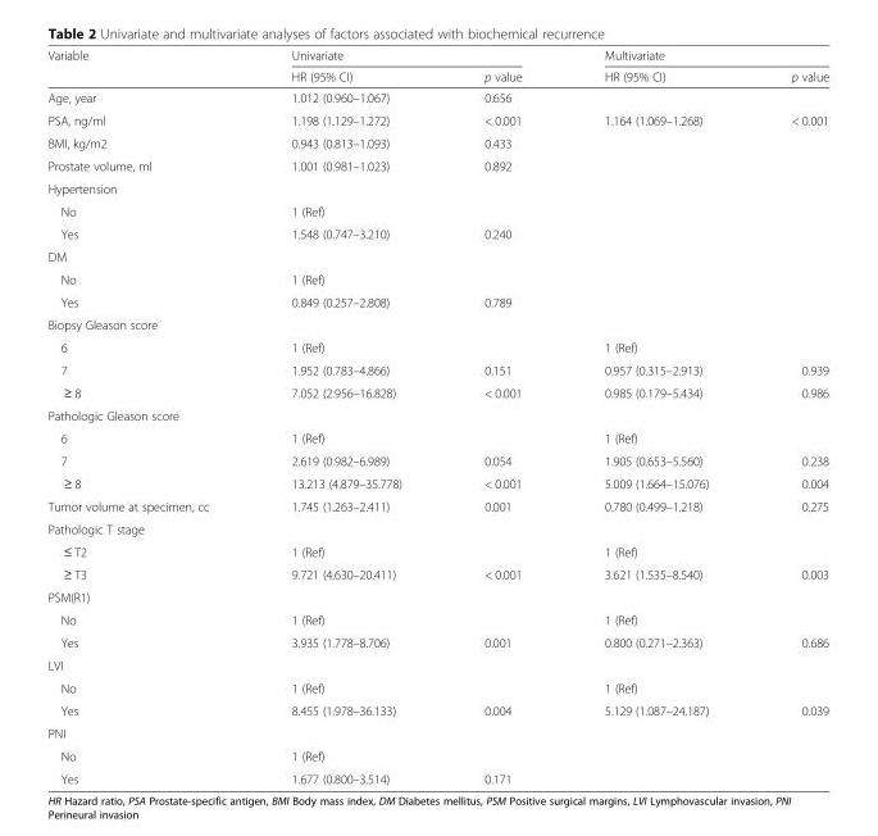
<table><thead><tr><td rowspan="2">Variable</td><td colspan="2">Univariate</td><td colspan="2">Multivariate</td></tr><tr><td>HR (95% CI)</td><td>p value</td><td>HR (95% CI)</td><td>p value</td></tr></thead><tbody><tr><td>Age, year</td><td>1.012 (0.960–1.067)</td><td>0.656</td><td></td><td></td></tr><tr><td>PSA, ng/ml</td><td>1.198 (1.129–1.272)</td><td>&lt; 0.001</td><td>1.164 (1.069–1.268)</td><td>&lt; 0.001</td></tr><tr><td>BMI, kg/m2</td><td>0.943 (0.813–1.093)</td><td>0.433</td><td></td><td></td></tr><tr><td>Prostate volume, ml</td><td>1.001 (0.981–1.023)</td><td>0.892</td><td></td><td></td></tr><tr><td colspan="5">Hypertension</td></tr><tr><td>No</td><td>1 (Ref)</td><td></td><td></td><td></td></tr><tr><td>Yes</td><td>1.548 (0.747–3.210)</td><td>0.240</td><td></td><td></td></tr><tr><td colspan="5">DM</td></tr><tr><td>No</td><td>1 (Ref)</td><td></td><td></td><td></td></tr><tr><td>Yes</td><td>0.849 (0.257–2.808)</td><td>0.789</td><td></td><td></td></tr><tr><td colspan="5">Biopsy Gleason score</td></tr><tr><td>6</td><td>1 (Ref)</td><td></td><td>1 (Ref)</td><td></td></tr><tr><td>7</td><td>1.952 (0.783–4.866)</td><td>0.151</td><td>0.957 (0.315–2.913)</td><td>0.939</td></tr><tr><td>≥ 8</td><td>7.052 (2.956–16.828)</td><td>&lt; 0.001</td><td>0.985 (0.179–5.434)</td><td>0.986</td></tr><tr><td colspan="5">Pathologic Gleason score</td></tr><tr><td>6</td><td>1 (Ref)</td><td></td><td>1 (Ref)</td><td></td></tr><tr><td>7</td><td>2.619 (0.982–6.989)</td><td>0.054</td><td>1.905 (0.653–5.560)</td><td>0.238</td></tr><tr><td>≥ 8</td><td>13.213 (4.879–35.778)</td><td>&lt; 0.001</td><td>5.009 (1.664–15.076)</td><td>0.004</td></tr><tr><td>Tumor volume at specimen, cc</td><td>1.745 (1.263–2.411)</td><td>0.001</td><td>0.780 (0.499–1.218)</td><td>0.275</td></tr><tr><td colspan="5">Pathologic T stage</td></tr><tr><td>≤ T2</td><td>1 (Ref)</td><td></td><td>1 (Ref)</td><td></td></tr><tr><td>≥ T3</td><td>9.721 (4.630–20.411)</td><td>&lt; 0.001</td><td>3.621 (1.535–8.540)</td><td>0.003</td></tr><tr><td colspan="5">PSM(R1)</td></tr><tr><td>No</td><td>1 (Ref)</td><td></td><td>1 (Ref)</td><td></td></tr><tr><td>Yes</td><td>3.935 (1.778–8.706)</td><td>0.001</td><td>0.800 (0.271–2.363)</td><td>0.686</td></tr><tr><td colspan="5">LVI</td></tr><tr><td>No</td><td>1 (Ref)</td><td></td><td>1 (Ref)</td><td></td></tr><tr><td>Yes</td><td>8.455 (1.978–36.133)</td><td>0.004</td><td>5.129 (1.087–24.187)</td><td>0.039</td></tr><tr><td colspan="5">PNI</td></tr><tr><td>No</td><td>1 (Ref)</td><td></td><td></td><td></td></tr><tr><td>Yes</td><td>1.677 (0.800–3.514)</td><td>0.171</td><td></td><td></td></tr></tbody></table>